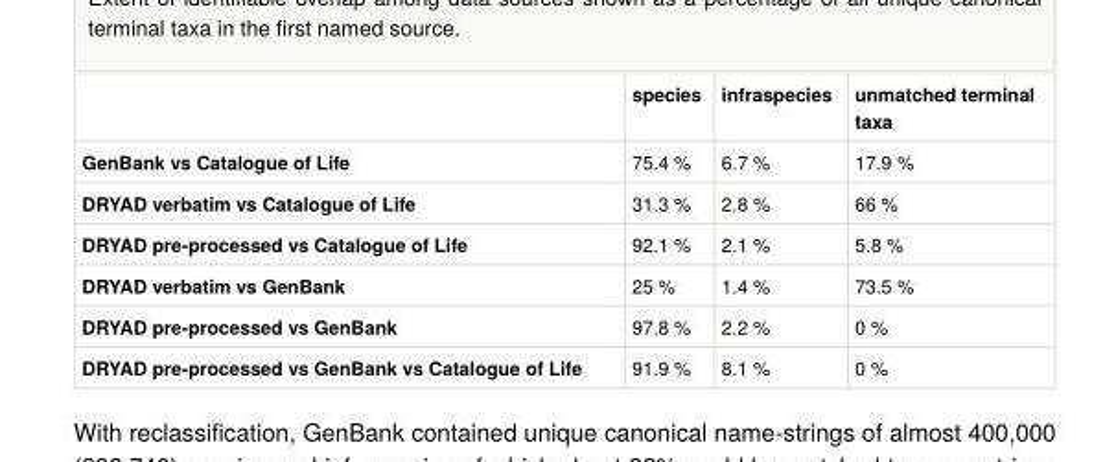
<table><thead><tr><td></td><td>species</td><td>infraspecies</td><td>unmatched terminal taxa</td></tr></thead><tbody><tr><td>GenBank vs Catalogue of Life</td><td>75.4 %</td><td>6.7 %</td><td>17.9 %</td></tr><tr><td>DRYAD verbatim vs Catalogue of Life</td><td>31.3 %</td><td>2.8 %</td><td>66 %</td></tr><tr><td>DRYAD pre-processed vs Catalogue of Life</td><td>92.1 %</td><td>2.1 %</td><td>5.8 %</td></tr><tr><td>DRYAD verbatim vs GenBank</td><td>25 %</td><td>1.4 %</td><td>73.5 %</td></tr><tr><td>DRYAD pre-processed vs GenBank</td><td>97.8 %</td><td>2.2 %</td><td>0 %</td></tr><tr><td>DRYAD pre-processed vs GenBank vs Catalogue of Life</td><td>91.9 %</td><td>8.1 %</td><td>0 %</td></tr></tbody></table>